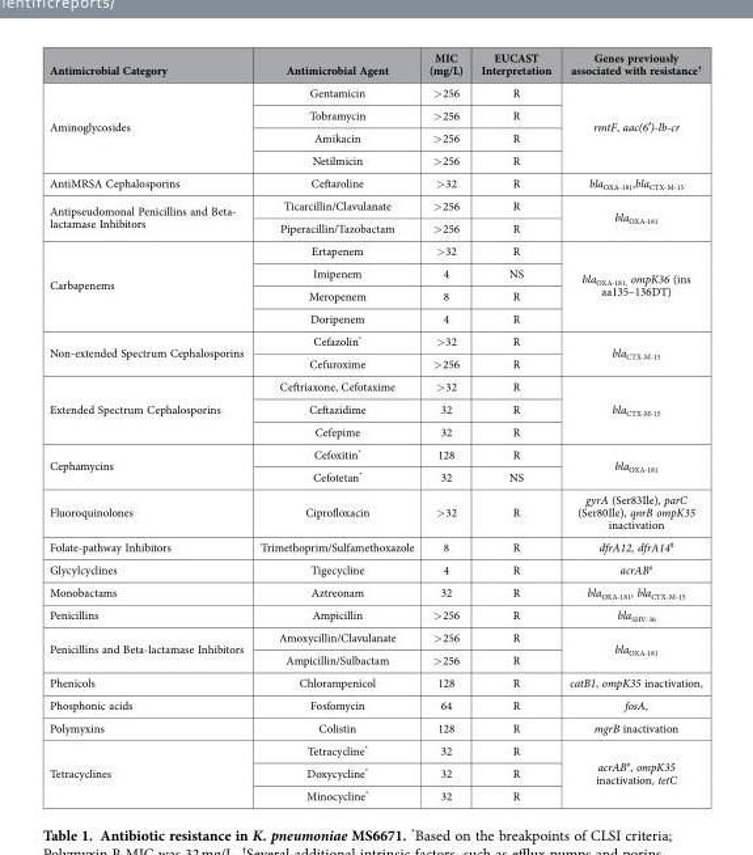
<table><thead><tr><td>Antimicrobial Category</td><td>Antimicrobial Agent</td><td>MIC (mg/L)</td><td>EUCAST Interpretation</td><td>Genes previously associated with resistance†</td></tr></thead><tbody><tr><td rowspan="4">Aminoglycosides</td><td>Gentamicin</td><td>&gt; 256</td><td>R</td><td rowspan="4">rmtF, aac(6’)-lb-cr</td></tr><tr><td>Tobramycin</td><td>&gt; 256</td><td>R</td></tr><tr><td>Amikacin</td><td>&gt; 256</td><td>R</td></tr><tr><td>Netilmicin</td><td>&gt; 256</td><td>R</td></tr><tr><td>AntiMRSA Cephalosporins</td><td>Ceftaroline</td><td>&gt; 32</td><td>R</td><td>bla<sub>OXA-181</sub>,bla<sub>CTX-M-15</sub></td></tr><tr><td rowspan="2">Antipseudomonal Penicillins and Beta- lactamase Inhibitors</td><td>Ticarcillin/Clavulanate</td><td>&gt; 256</td><td>R</td><td rowspan="2">bla<sub>OXA-181</sub></td></tr><tr><td>Piperacillin/Tazobactam</td><td>&gt; 256</td><td>R</td></tr><tr><td rowspan="4">Carbapenems</td><td>Ertapenem</td><td>&gt; 32</td><td>R</td><td rowspan="4">bla<sub>OXA-181,</sub> ompK36 (ins aa135–136DT)</td></tr><tr><td>Imipenem</td><td>4</td><td>NS</td></tr><tr><td>Meropenem</td><td>8</td><td>R</td></tr><tr><td>Doripenem</td><td>4</td><td>R</td></tr><tr><td rowspan="2">Non-extended Spectrum Cephalosporins</td><td>Cefazolin*</td><td>&gt; 32</td><td>R</td><td rowspan="2">bla<sub>CTX-M-15</sub></td></tr><tr><td>Cefuroxime</td><td>&gt; 256</td><td>R</td></tr><tr><td rowspan="3">Extended Spectrum Cephalosporins</td><td>Ceftriaxone, Cefotaxime</td><td>&gt; 32</td><td>R</td><td rowspan="3">bla<sub>CTX-M-15</sub></td></tr><tr><td>Ceftazidime</td><td>32</td><td>R</td></tr><tr><td>Cefepime</td><td>32</td><td>R</td></tr><tr><td rowspan="2">Cephamycins</td><td>Cefoxitin*</td><td>128</td><td>R</td><td rowspan="2">bla<sub>OXA-181</sub></td></tr><tr><td>Cefotetan*</td><td>32</td><td>NS</td></tr><tr><td>Fluoroquinolones</td><td>Ciprofloxacin</td><td>&gt; 32</td><td>R</td><td>gyrA (Ser83Ile), parC (Ser80Ile), qnrB ompK35 inactivation</td></tr><tr><td>Folate-pathway Inhibitors</td><td>Trimethoprim/Sulfamethoxazole</td><td>8</td><td>R</td><td>dfrA12, dfrA14‡</td></tr><tr><td>Glycylcyclines</td><td>Tigecycline</td><td>4</td><td>R</td><td>acrAB#</td></tr><tr><td>Monobactams</td><td>Aztreonam</td><td>32</td><td>R</td><td>bla<sub>OXA-181</sub>, bla<sub>CTX-M-15</sub></td></tr><tr><td>Penicillins</td><td>Ampicillin</td><td>&gt; 256</td><td>R</td><td>bla<sub>SHV-36</sub></td></tr><tr><td rowspan="2">Penicillins and Beta-lactamase Inhibitors</td><td>Amoxycillin/Clavulanate</td><td>&gt; 256</td><td>R</td><td rowspan="2">bla<sub>OXA-181</sub></td></tr><tr><td>Ampicillin/Sulbactam</td><td>&gt; 256</td><td>R</td></tr><tr><td>Phenicols</td><td>Chlorampenicol</td><td>128</td><td>R</td><td>catB1, ompK35 inactivation,</td></tr><tr><td>Phosphonic acids</td><td>Fosfomycin</td><td>64</td><td>R</td><td>fosA,</td></tr><tr><td>Polymyxins</td><td>Colistin</td><td>128</td><td>R</td><td>mgrB inactivation</td></tr><tr><td rowspan="3">Tetracyclines</td><td>Tetracycline*</td><td>32</td><td>R</td><td rowspan="3">acrAB#, ompK35 inactivation, tetC</td></tr><tr><td>Doxycycline*</td><td>32</td><td>R</td></tr><tr><td>Minocycline*</td><td>32</td><td>R</td></tr></tbody></table>